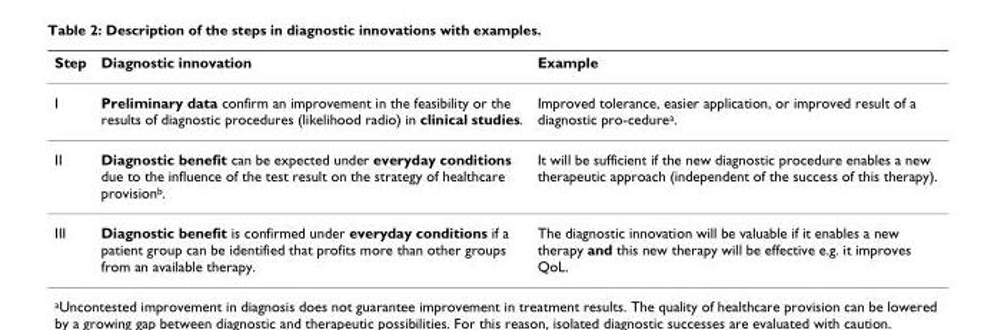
<table><thead><tr><td>Step</td><td>Diagnostic innovation</td><td>Example</td></tr></thead><tbody><tr><td>I</td><td>Preliminary data confirm an improvement in the feasibility or the results of diagnostic procedures (likelihood radio) in clinical studies.</td><td>Improved tolerance, easier application, or improved result of a diagnostic pro-cedure<sup>a</sup>.</td></tr><tr><td>II</td><td>Diagnostic benefit can be expected under everyday conditions due to the influence of the test result on the strategy of healthcare provision<sup>b</sup>.</td><td>It will be sufficient if the new diagnostic procedure enables a new therapeutic approach (independent of the success of this therapy).</td></tr><tr><td>III</td><td>Diagnostic benefit is confirmed under everyday conditions if a patient group can be identified that profits more than other groups from an available therapy.</td><td>The diagnostic innovation will be valuable if it enables a new therapy and this new therapy will be effective e.g. it improves QoL.</td></tr></tbody></table>